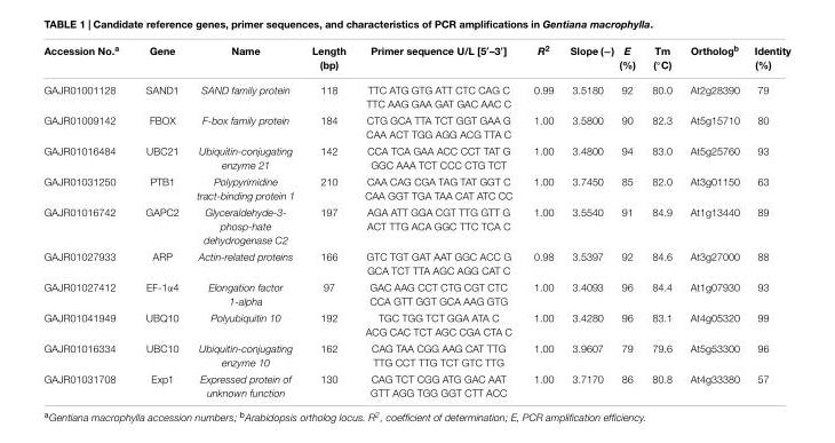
<table><thead><tr><td>Accession No.<sup>a</sup></td><td>Gene</td><td>Name</td><td>Length (bp)</td><td>Primer sequence U/L [5′–3′]</td><td>R<sup>2</sup></td><td>Slope (−)</td><td>E (%)</td><td>Tm (◦C)</td><td>Ortholog<sup>b</sup></td><td>Identity (%)</td></tr></thead><tbody><tr><td>GAJR01001128</td><td>SAND1</td><td>SAND family protein</td><td>118</td><td>TTC ATG GTG ATT CTC CAG C TTC AAG GAA GAT GAC AAC C</td><td>0.99</td><td>3.5180</td><td>92</td><td>80.0</td><td>At2g28390</td><td>79</td></tr><tr><td>GAJR01009142</td><td>FBOX</td><td>F-box family protein</td><td>184</td><td>CTG GCA TTA TCT GGT GAA G CAA ACT TGG AGG ACG TTA C</td><td>1.00</td><td>3.5800</td><td>90</td><td>82.3</td><td>At5g15710</td><td>80</td></tr><tr><td>GAJR01016484</td><td>UBC21</td><td>Ubiquitin-conjugating enzyme 21</td><td>142</td><td>CCA TCA GAA ACC CCT TAT G GGC AAA TCT CCC CTG TCT</td><td>1.00</td><td>3.4800</td><td>94</td><td>83.0</td><td>At5g25760</td><td>93</td></tr><tr><td>GAJR01031250</td><td>PTB1</td><td>Polypyrimidine tract-binding protein 1</td><td>210</td><td>CAA CAG CGA TAG TAT GGT C CAA GGT TGA TAA CAT ATC CC</td><td>1.00</td><td>3.7450</td><td>85</td><td>82.0</td><td>At3g01150</td><td>63</td></tr><tr><td>GAJR01016742</td><td>GAPC2</td><td>Glyceraldehyde-3- phosp-hate dehydrogenase C2</td><td>197</td><td>AGA ATT GGA CGT TTG GTT G ACT TTG ACA GGC TTC TCA C</td><td>1.00</td><td>3.5540</td><td>91</td><td>84.9</td><td>At1g13440</td><td>89</td></tr><tr><td>GAJR01027933</td><td>ARP</td><td>Actin-related proteins</td><td>166</td><td>GTC TGT GAT AAT GGC ACC G GCA TCT TTA AGC AGG CAT C</td><td>0.98</td><td>3.5397</td><td>92</td><td>84.6</td><td>At3g27000</td><td>88</td></tr><tr><td>GAJR01027412</td><td>EF-1α4</td><td>Elongation factor 1-alpha</td><td>97</td><td>GAC AAG CCT CTG CGT CTC CCA GTT GGT GCA AAG GTG</td><td>1.00</td><td>3.4093</td><td>96</td><td>84.4</td><td>At1g07930</td><td>93</td></tr><tr><td>GAJR01041949</td><td>UBQ10</td><td>Polyubiquitin 10</td><td>192</td><td>TGC TGG TCT GGA ATA C ACG CAC TCT AGC CGA CTA C</td><td>1.00</td><td>3.4280</td><td>96</td><td>83.1</td><td>At4g05320</td><td>99</td></tr><tr><td>GAJR01016334</td><td>UBC10</td><td>Ubiquitin-conjugating enzyme 10</td><td>162</td><td>CAG TAA CGG AAG CAT TTG TTG CCT TTG TCT GTC TTG</td><td>1.00</td><td>3.9607</td><td>79</td><td>79.6</td><td>At5g53300</td><td>96</td></tr><tr><td>GAJR01031708</td><td>Exp1</td><td>Expressed protein of unknown function</td><td>130</td><td>CAG TCT CGG ATG GAC AAT GTT AGG TGG GGT CTT ACC</td><td>1.00</td><td>3.7170</td><td>86</td><td>80.8</td><td>At4g33380</td><td>57</td></tr></tbody></table>